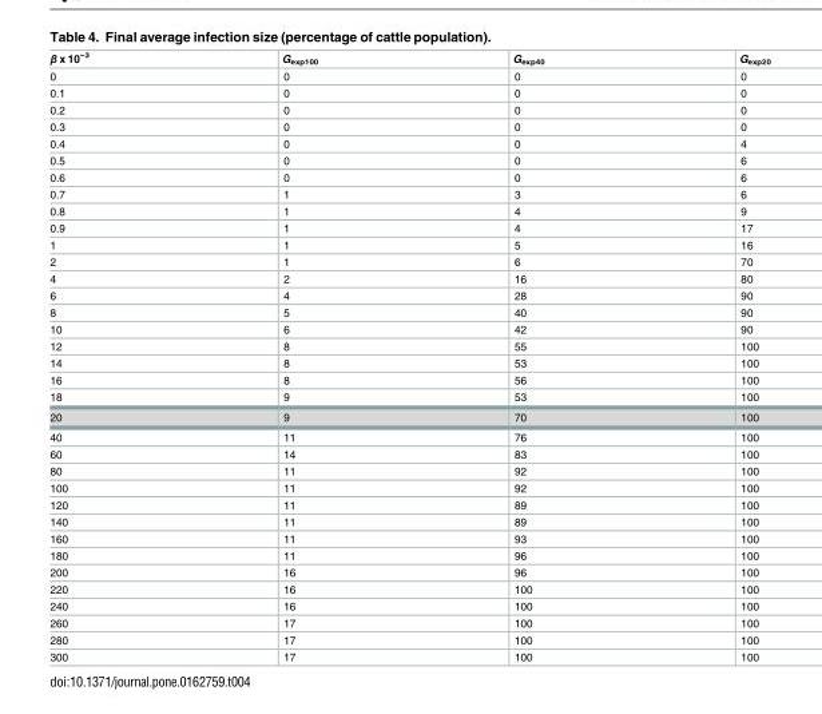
<table><thead><tr><td>β x 10<sup>−3</sup></td><td>G<sub>exp100</sub></td><td>G<sub>exp40</sub></td><td>G<sub>exp20</sub></td></tr></thead><tbody><tr><td>0</td><td>0</td><td>0</td><td>0</td></tr><tr><td>0.1</td><td>0</td><td>0</td><td>0</td></tr><tr><td>0.2</td><td>0</td><td>0</td><td>0</td></tr><tr><td>0.3</td><td>0</td><td>0</td><td>0</td></tr><tr><td>0.4</td><td>0</td><td>0</td><td>4</td></tr><tr><td>0.5</td><td>0</td><td>0</td><td>6</td></tr><tr><td>0.6</td><td>0</td><td>0</td><td>6</td></tr><tr><td>0.7</td><td>1</td><td>3</td><td>6</td></tr><tr><td>0.8</td><td>1</td><td>4</td><td>9</td></tr><tr><td>0.9</td><td>1</td><td>4</td><td>17</td></tr><tr><td>1</td><td>1</td><td>5</td><td>16</td></tr><tr><td>2</td><td>1</td><td>6</td><td>70</td></tr><tr><td>4</td><td>2</td><td>16</td><td>80</td></tr><tr><td>6</td><td>4</td><td>28</td><td>90</td></tr><tr><td>8</td><td>5</td><td>40</td><td>90</td></tr><tr><td>10</td><td>6</td><td>42</td><td>90</td></tr><tr><td>12</td><td>8</td><td>55</td><td>100</td></tr><tr><td>14</td><td>8</td><td>53</td><td>100</td></tr><tr><td>16</td><td>8</td><td>56</td><td>100</td></tr><tr><td>18</td><td>9</td><td>53</td><td>100</td></tr><tr><td>20</td><td>9</td><td>70</td><td>100</td></tr><tr><td>40</td><td>11</td><td>76</td><td>100</td></tr><tr><td>60</td><td>14</td><td>83</td><td>100</td></tr><tr><td>80</td><td>11</td><td>92</td><td>100</td></tr><tr><td>100</td><td>11</td><td>92</td><td>100</td></tr><tr><td>120</td><td>11</td><td>89</td><td>100</td></tr><tr><td>140</td><td>11</td><td>89</td><td>100</td></tr><tr><td>160</td><td>11</td><td>93</td><td>100</td></tr><tr><td>180</td><td>11</td><td>96</td><td>100</td></tr><tr><td>200</td><td>16</td><td>96</td><td>100</td></tr><tr><td>220</td><td>16</td><td>100</td><td>100</td></tr><tr><td>240</td><td>16</td><td>100</td><td>100</td></tr><tr><td>260</td><td>17</td><td>100</td><td>100</td></tr><tr><td>280</td><td>17</td><td>100</td><td>100</td></tr><tr><td>300</td><td>17</td><td>100</td><td>100</td></tr></tbody></table>